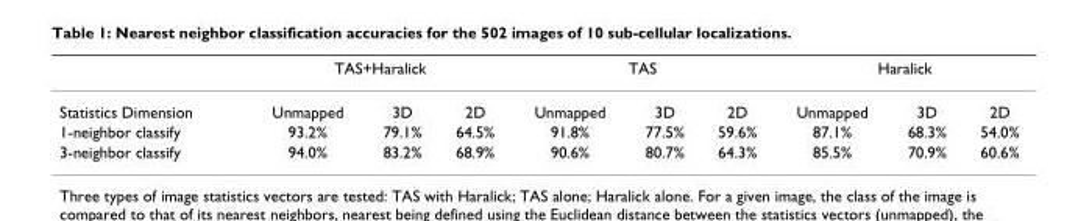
<table><thead><tr><td rowspan="2">Statistics Dimension</td><td colspan="3">TAS+Haralick</td><td colspan="3">TAS</td><td colspan="3">Haralick</td></tr><tr><td>Unmapped</td><td>3D</td><td>2D</td><td>Unmapped</td><td>3D</td><td>2D</td><td>Unmapped</td><td>3D</td><td>2D</td></tr></thead><tbody><tr><td>1-neighbor classify</td><td>93.2%</td><td>79.1%</td><td>64.5%</td><td>91.8%</td><td>77.5%</td><td>59.6%</td><td>87.1%</td><td>68.3%</td><td>54.0%</td></tr><tr><td>3-neighbor classify</td><td>94.0%</td><td>83.2%</td><td>68.9%</td><td>90.6%</td><td>80.7%</td><td>64.3%</td><td>85.5%</td><td>70.9%</td><td>60.6%</td></tr></tbody></table>